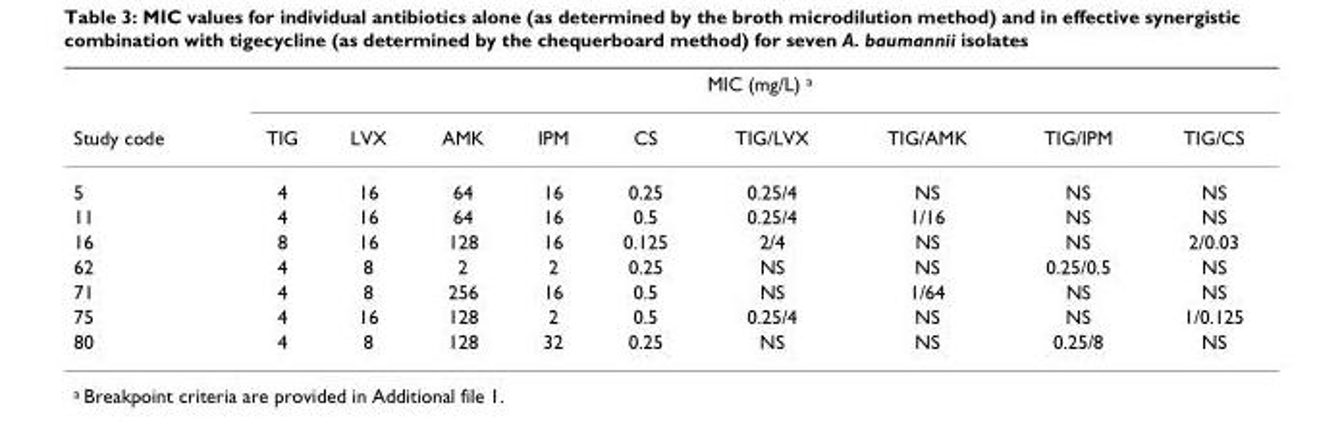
<table><thead><tr><td rowspan="2">Study code</td><td colspan="9">MIC (mg/L) <sup>a</sup></td></tr><tr><td>TIG</td><td>LVX</td><td>AMK</td><td>IPM</td><td>CS</td><td>TIG/LVX</td><td>TIG/AMK</td><td>TIG/IPM</td><td>TIG/CS</td></tr></thead><tbody><tr><td>5</td><td>4</td><td>16</td><td>64</td><td>16</td><td>0.25</td><td>0.25/4</td><td>NS</td><td>NS</td><td>NS</td></tr><tr><td>11</td><td>4</td><td>16</td><td>64</td><td>16</td><td>0.5</td><td>0.25/4</td><td>1/16</td><td>NS</td><td>NS</td></tr><tr><td>16</td><td>8</td><td>16</td><td>128</td><td>16</td><td>0.125</td><td>2/4</td><td>NS</td><td>NS</td><td>2/0.03</td></tr><tr><td>62</td><td>4</td><td>8</td><td>2</td><td>2</td><td>0.25</td><td>NS</td><td>NS</td><td>0.25/0.5</td><td>NS</td></tr><tr><td>71</td><td>4</td><td>8</td><td>256</td><td>16</td><td>0.5</td><td>NS</td><td>1/64</td><td>NS</td><td>NS</td></tr><tr><td>75</td><td>4</td><td>16</td><td>128</td><td>2</td><td>0.5</td><td>0.25/4</td><td>NS</td><td>NS</td><td>1/0.125</td></tr><tr><td>80</td><td>4</td><td>8</td><td>128</td><td>32</td><td>0.25</td><td>NS</td><td>NS</td><td>0.25/8</td><td>NS</td></tr></tbody></table>